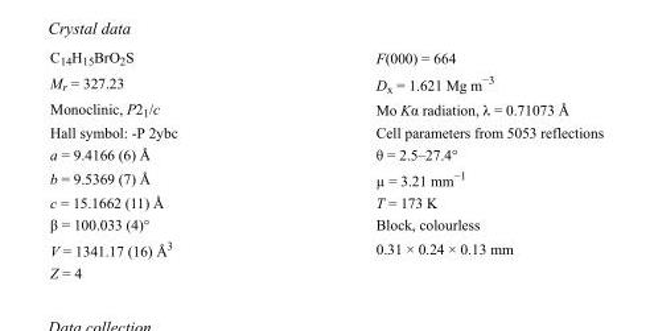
<table><tbody><tr><td>C<sub>14</sub>H<sub>15</sub>BrO<sub>2</sub>S</td><td>F(000) = 664</td></tr><tr><td>M<sub>r</sub> = 327.23</td><td>D<sub>x</sub> = 1.621 Mg m<sup>−3</sup></td></tr><tr><td>Monoclinic, P2<sub>1</sub>/c</td><td>Mo Kα radiation, λ = 0.71073 Å</td></tr><tr><td>Hall symbol: -P 2ybc</td><td>Cell parameters from 5053 reflections</td></tr><tr><td>a = 9.4166 (6) Å</td><td>θ = 2.5–27.4°</td></tr><tr><td>b = 9.5369 (7) Å</td><td>µ = 3.21 mm<sup>−1</sup></td></tr><tr><td>c = 15.1662 (11) Å</td><td>T = 173 K</td></tr><tr><td>β = 100.033 (4)°</td><td>Block, colourless</td></tr><tr><td>V = 1341.17 (16) Å<sup>3</sup></td><td>0.31 × 0.24 × 0.13 mm</td></tr><tr><td>Z = 4</td><td></td></tr></tbody></table>